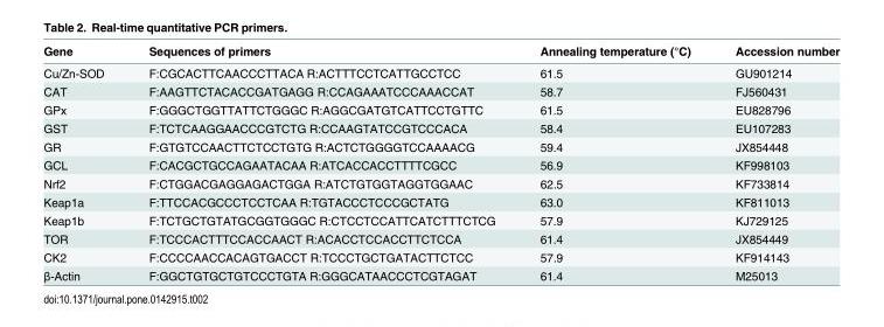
<table><thead><tr><td>Gene</td><td>Sequences of primers</td><td>Annealing temperature (°C)</td><td>Accession number</td></tr></thead><tbody><tr><td>Cu/Zn-SOD</td><td>F:CGCACTTCAACCCTTACA R:ACTTTCCTCATTGCCTCC</td><td>61.5</td><td>GU901214</td></tr><tr><td>CAT</td><td>F:AAGTTCTACACCGATGAGG R:CCAGAAATCCCAAACCAT</td><td>58.7</td><td>FJ560431</td></tr><tr><td>GPx</td><td>F:GGGCTGGTTATTCTGGGC R:AGGCGATGTCATTCCTGTTC</td><td>61.5</td><td>EU828796</td></tr><tr><td>GST</td><td>F:TCTCAAGGAACCCGTCTG R:CCAAGTATCCGTCCCACA</td><td>58.4</td><td>EU107283</td></tr><tr><td>GR</td><td>F:GTGTCCAACTTCTCCTGTG R:ACTCTGGGGTCCAAAACG</td><td>59.4</td><td>JX854448</td></tr><tr><td>GCL</td><td>F:CACGCTGCCAGAATACAA R:ATCACCACCTTTTCGCC</td><td>56.9</td><td>KF998103</td></tr><tr><td>Nrf2</td><td>F:CTGGACGAGGAGACTGGA R:ATCTGTGGTAGGTGGAAC</td><td>62.5</td><td>KF733814</td></tr><tr><td>Keap1a</td><td>F:TTCCACGCCCTCCTCAA R:TGTACCCTCCCGCTATG</td><td>63.0</td><td>KF811013</td></tr><tr><td>Keap1b</td><td>F:TCTGCTGTATGCGGTGGGC R:CTCCTCCATTCATCTTTCTCG</td><td>57.9</td><td>KJ729125</td></tr><tr><td>TOR</td><td>F:TCCCACTTTCCACCAACT R:ACACCTCCACCTTCTCCA</td><td>61.4</td><td>JX854449</td></tr><tr><td>CK2</td><td>F:CCCCAACCACAGTGACCT R:TCCCTGCTGATACTTCTCC</td><td>57.9</td><td>KF914143</td></tr><tr><td>β-Actin</td><td>F:GGCTGTGCTGTCCCTGTA R:GGGCATAACCCTCGTAGAT</td><td>61.4</td><td>M25013</td></tr></tbody></table>